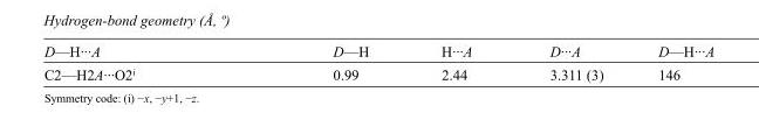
<table><tbody><tr><td>D—H···A</td><td>D—H</td><td>H···A</td><td>D···A</td><td>D—H···A</td></tr><tr><td>C2—H2A···O2<sup>i</sup></td><td>0.99</td><td>2.44</td><td>3.311 (3)</td><td>146</td></tr></tbody></table>